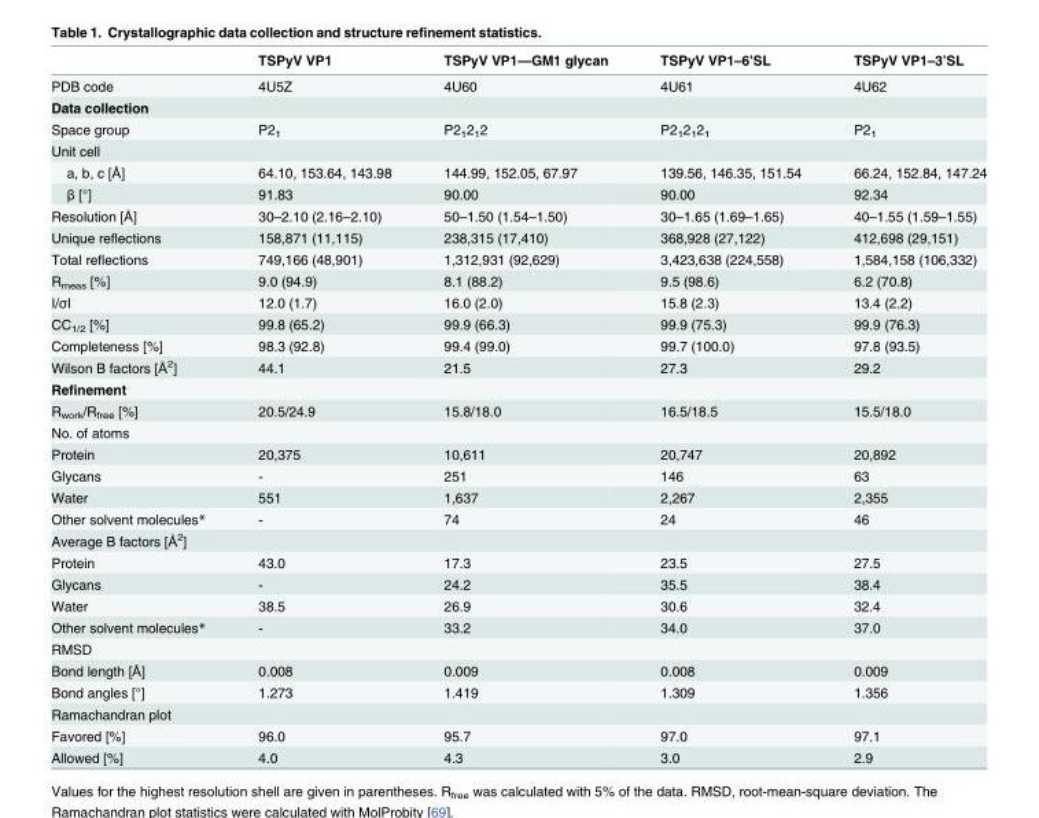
<table><thead><tr><td></td><td>TSPyV VP1</td><td>TSPyV VP1—GM1 glycan</td><td>TSPyV VP1–6’SL</td><td>TSPyV VP1–3’SL</td></tr></thead><tbody><tr><td>PDB code</td><td>4U5Z</td><td>4U60</td><td>4U61</td><td>4U62</td></tr><tr><td colspan="5">Data collection</td></tr><tr><td>Space group</td><td>P2<sub>1</sub></td><td>P2<sub>1</sub>2<sub>1</sub>2</td><td>P2<sub>1</sub>2<sub>1</sub>2<sub>1</sub></td><td>P2<sub>1</sub></td></tr><tr><td colspan="5">Unit cell</td></tr><tr><td>a, b, c [Å]</td><td>64.10, 153.64, 143.98</td><td>144.99, 152.05, 67.97</td><td>139.56, 146.35, 151.54</td><td>66.24, 152.84, 147.24</td></tr><tr><td>β [°]</td><td>91.83</td><td>90.00</td><td>90.00</td><td>92.34</td></tr><tr><td>Resolution [Å]</td><td>30–2.10 (2.16–2.10)</td><td>50–1.50 (1.54–1.50)</td><td>30–1.65 (1.69–1.65)</td><td>40–1.55 (1.59–1.55)</td></tr><tr><td>Unique reflections</td><td>158,871 (11,115)</td><td>238,315 (17,410)</td><td>368,928 (27,122)</td><td>412,698 (29,151)</td></tr><tr><td>Total reflections</td><td>749,166 (48,901)</td><td>1,312,931 (92,629)</td><td>3,423,638 (224,558)</td><td>1,584,158 (106,332)</td></tr><tr><td>R<sub>meas</sub> [%]</td><td>9.0 (94.9)</td><td>8.1 (88.2)</td><td>9.5 (98.6)</td><td>6.2 (70.8)</td></tr><tr><td>I/σI</td><td>12.0 (1.7)</td><td>16.0 (2.0)</td><td>15.8 (2.3)</td><td>13.4 (2.2)</td></tr><tr><td>CC<sub>1/2</sub> [%]</td><td>99.8 (65.2)</td><td>99.9 (66.3)</td><td>99.9 (75.3)</td><td>99.9 (76.3)</td></tr><tr><td>Completeness [%]</td><td>98.3 (92.8)</td><td>99.4 (99.0)</td><td>99.7 (100.0)</td><td>97.8 (93.5)</td></tr><tr><td>Wilson B factors [Å<sup>2</sup>]</td><td>44.1</td><td>21.5</td><td>27.3</td><td>29.2</td></tr><tr><td colspan="5">Refinement</td></tr><tr><td>R<sub>work</sub>/R<sub>free</sub> [%]</td><td>20.5/24.9</td><td>15.8/18.0</td><td>16.5/18.5</td><td>15.5/18.0</td></tr><tr><td colspan="5">No. of atoms</td></tr><tr><td>Protein</td><td>20,375</td><td>10,611</td><td>20,747</td><td>20,892</td></tr><tr><td>Glycans</td><td>-</td><td>251</td><td>146</td><td>63</td></tr><tr><td>Water</td><td>551</td><td>1,637</td><td>2,267</td><td>2,355</td></tr><tr><td>Other solvent molecules*</td><td>-</td><td>74</td><td>24</td><td>46</td></tr><tr><td colspan="5">Average B factors [Å<sup>2</sup>]</td></tr><tr><td>Protein</td><td>43.0</td><td>17.3</td><td>23.5</td><td>27.5</td></tr><tr><td>Glycans</td><td>-</td><td>24.2</td><td>35.5</td><td>38.4</td></tr><tr><td>Water</td><td>38.5</td><td>26.9</td><td>30.6</td><td>32.4</td></tr><tr><td>Other solvent molecules*</td><td>-</td><td>33.2</td><td>34.0</td><td>37.0</td></tr><tr><td colspan="5">RMSD</td></tr><tr><td>Bond length [Å]</td><td>0.008</td><td>0.009</td><td>0.008</td><td>0.009</td></tr><tr><td>Bond angles [°]</td><td>1.273</td><td>1.419</td><td>1.309</td><td>1.356</td></tr><tr><td colspan="5">Ramachandran plot</td></tr><tr><td>Favored [%]</td><td>96.0</td><td>95.7</td><td>97.0</td><td>97.1</td></tr><tr><td>Allowed [%]</td><td>4.0</td><td>4.3</td><td>3.0</td><td>2.9</td></tr></tbody></table>